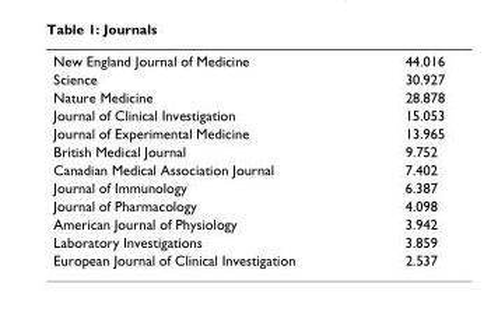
<table><tbody><tr><td>New England Journal of Medicine</td><td>44.016</td></tr><tr><td>Science</td><td>30.927</td></tr><tr><td>Nature Medicine</td><td>28.878</td></tr><tr><td>Journal of Clinical Investigation</td><td>15.053</td></tr><tr><td>Journal of Experimental Medicine</td><td>13.965</td></tr><tr><td>British Medical Journal</td><td>9.752</td></tr><tr><td>Canadian Medical Association Journal</td><td>7.402</td></tr><tr><td>Journal of Immunology</td><td>6.387</td></tr><tr><td>Journal of Pharmacology</td><td>4.098</td></tr><tr><td>American Journal of Physiology</td><td>3.942</td></tr><tr><td>Laboratory Investigations</td><td>3.859</td></tr><tr><td>European Journal of Clinical Investigation</td><td>2.537</td></tr></tbody></table>